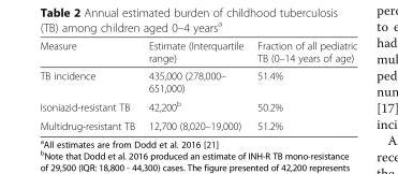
<table><thead><tr><td>Measure</td><td>Estimate (Interquartile range)</td><td>Fraction of all pediatric TB (0–14 years of age)</td></tr></thead><tbody><tr><td>TB incidence</td><td>435,000 (278,000– 651,000)</td><td>51.4%</td></tr><tr><td>Isoniazid-resistant TB</td><td>42,200<sup>b</sup></td><td>50.2%</td></tr><tr><td>Multidrug-resistant TB</td><td>12,700 (8,020–19,000)</td><td>51.2%</td></tr></tbody></table>